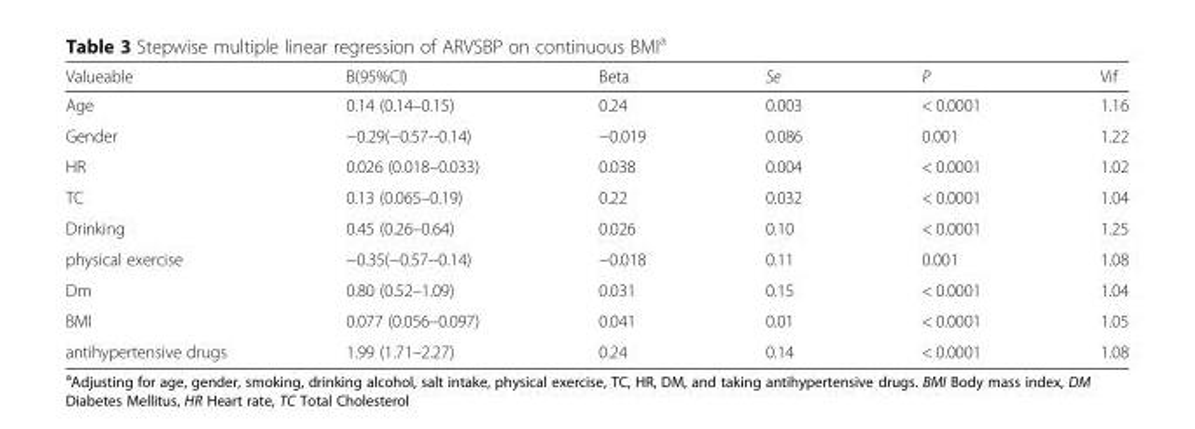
<table><thead><tr><td>Valueable</td><td>B(95%CI)</td><td>Beta</td><td>Se</td><td>P</td><td>Vif</td></tr></thead><tbody><tr><td>Age</td><td>0.14 (0.14–0.15)</td><td>0.24</td><td>0.003</td><td>&lt; 0.0001</td><td>1.16</td></tr><tr><td>Gender</td><td>−0.29(−0.57--0.14)</td><td>−0.019</td><td>0.086</td><td>0.001</td><td>1.22</td></tr><tr><td>HR</td><td>0.026 (0.018–0.033)</td><td>0.038</td><td>0.004</td><td>&lt; 0.0001</td><td>1.02</td></tr><tr><td>TC</td><td>0.13 (0.065–0.19)</td><td>0.22</td><td>0.032</td><td>&lt; 0.0001</td><td>1.04</td></tr><tr><td>Drinking</td><td>0.45 (0.26–0.64)</td><td>0.026</td><td>0.10</td><td>&lt; 0.0001</td><td>1.25</td></tr><tr><td>physical exercise</td><td>−0.35(−0.57--0.14)</td><td>−0.018</td><td>0.11</td><td>0.001</td><td>1.08</td></tr><tr><td>Dm</td><td>0.80 (0.52–1.09)</td><td>0.031</td><td>0.15</td><td>&lt; 0.0001</td><td>1.04</td></tr><tr><td>BMI</td><td>0.077 (0.056–0.097)</td><td>0.041</td><td>0.01</td><td>&lt; 0.0001</td><td>1.05</td></tr><tr><td>antihypertensive drugs</td><td>1.99 (1.71–2.27)</td><td>0.24</td><td>0.14</td><td>&lt; 0.0001</td><td>1.08</td></tr></tbody></table>